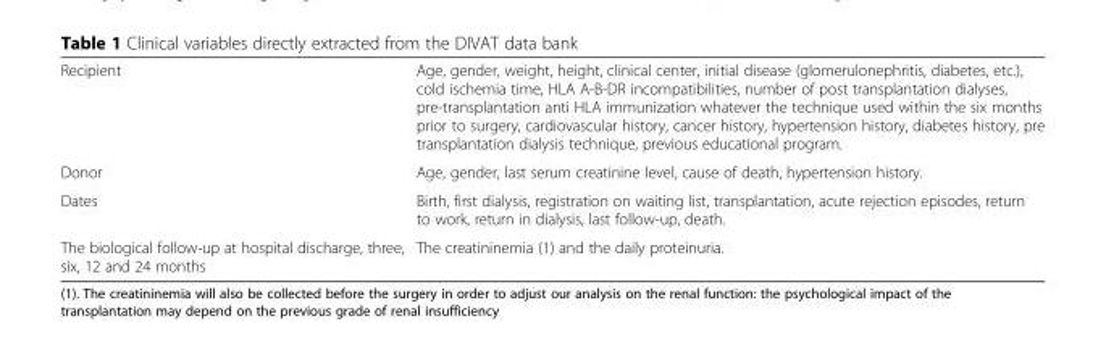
<table><tbody><tr><td>Recipient</td><td>Age, gender, weight, height, clinical center, initial disease (glomerulonephritis, diabetes, etc.), cold ischemia time, HLA A-B-DR incompatibilities, number of post transplantation dialyses, pre-transplantation anti HLA immunization whatever the technique used within the six months prior to surgery, cardiovascular history, cancer history, hypertension history, diabetes history, pre transplantation dialysis technique, previous educational program.</td></tr><tr><td>Donor</td><td>Age, gender, last serum creatinine level, cause of death, hypertension history.</td></tr><tr><td>Dates</td><td>Birth, first dialysis, registration on waiting list, transplantation, acute rejection episodes, return to work, return in dialysis, last follow-up, death.</td></tr><tr><td>The biological follow-up at hospital discharge, three, six, 12 and 24 months</td><td>The creatininemia (1) and the daily proteinuria.</td></tr></tbody></table>